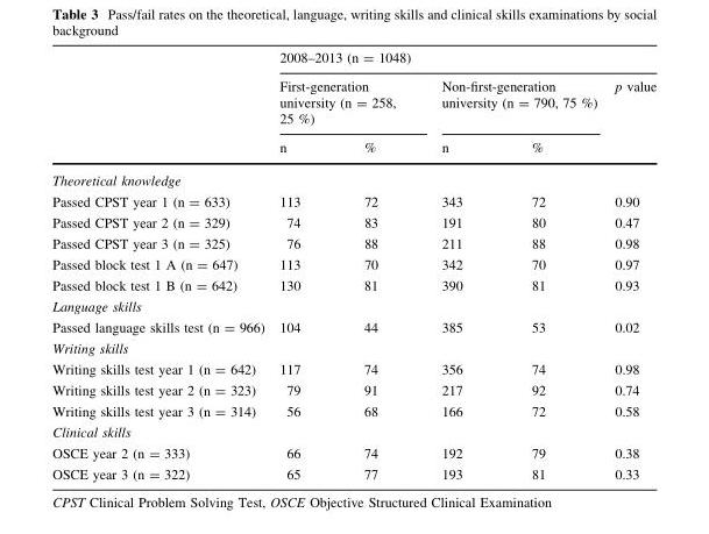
<table><thead><tr><td rowspan="3"></td><td colspan="5">2008–2013 (n = 1048)</td></tr><tr><td colspan="2">First-generation university (n = 258, 25 %)</td><td colspan="2">Non-first-generation university (n = 790, 75 %)</td><td rowspan="2">p value</td></tr><tr><td>n</td><td>%</td><td>n</td><td>%</td></tr></thead><tbody><tr><td colspan="6">Theoretical knowledge</td></tr><tr><td>Passed CPST year 1 (n = 633)</td><td>113</td><td>72</td><td>343</td><td>72</td><td>0.90</td></tr><tr><td>Passed CPST year 2 (n = 329)</td><td>74</td><td>83</td><td>191</td><td>80</td><td>0.47</td></tr><tr><td>Passed CPST year 3 (n = 325)</td><td>76</td><td>88</td><td>211</td><td>88</td><td>0.98</td></tr><tr><td>Passed block test 1 A (n = 647)</td><td>113</td><td>70</td><td>342</td><td>70</td><td>0.97</td></tr><tr><td>Passed block test 1 B (n = 642)</td><td>130</td><td>81</td><td>390</td><td>81</td><td>0.93</td></tr><tr><td colspan="6">Language skills</td></tr><tr><td>Passed language skills test (n = 966)</td><td>104</td><td>44</td><td>385</td><td>53</td><td>0.02</td></tr><tr><td colspan="6">Writing skills</td></tr><tr><td>Writing skills test year 1 (n = 642)</td><td>117</td><td>74</td><td>356</td><td>74</td><td>0.98</td></tr><tr><td>Writing skills test year 2 (n = 323)</td><td>79</td><td>91</td><td>217</td><td>92</td><td>0.74</td></tr><tr><td>Writing skills test year 3 (n = 314)</td><td>56</td><td>68</td><td>166</td><td>72</td><td>0.58</td></tr><tr><td colspan="6">Clinical skills</td></tr><tr><td>OSCE year 2 (n = 333)</td><td>66</td><td>74</td><td>192</td><td>79</td><td>0.38</td></tr><tr><td>OSCE year 3 (n = 322)</td><td>65</td><td>77</td><td>193</td><td>81</td><td>0.33</td></tr></tbody></table>